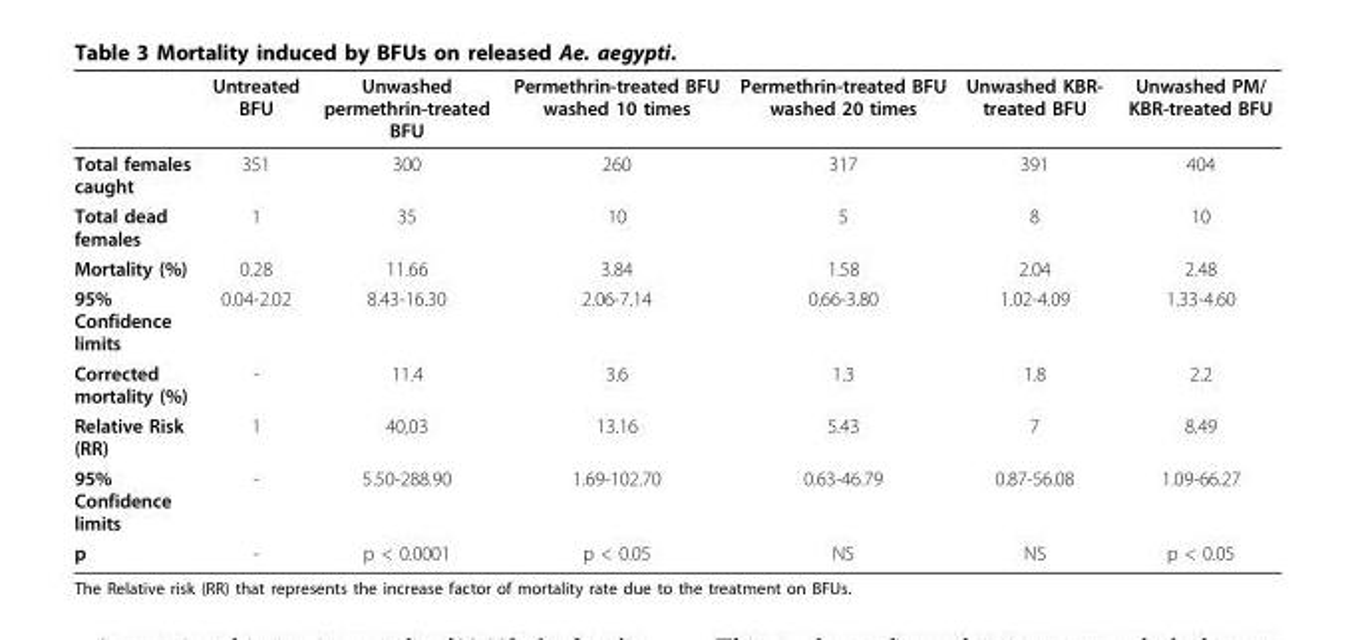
<table><thead><tr><td></td><td>Untreated BFU</td><td>Unwashed permethrin-treated BFU</td><td>Permethrin-treated BFU washed 10 times</td><td>Permethrin-treated BFU washed 20 times</td><td>Unwashed KBR- treated BFU</td><td>Unwashed PM/ KBR-treated BFU</td></tr></thead><tbody><tr><td>Total females caught</td><td>351</td><td>300</td><td>260</td><td>317</td><td>391</td><td>404</td></tr><tr><td>Total dead females</td><td>1</td><td>35</td><td>10</td><td>5</td><td>8</td><td>10</td></tr><tr><td>Mortality (%)</td><td>0.28</td><td>11.66</td><td>3.84</td><td>1.58</td><td>2.04</td><td>2.48</td></tr><tr><td>95% Confidence limits</td><td>0.04-2.02</td><td>8.43-16.30</td><td>2.06-7.14</td><td>0.66-3.80</td><td>1.02-4.09</td><td>1.33-4.60</td></tr><tr><td>Corrected mortality (%)</td><td>-</td><td>11.4</td><td>3.6</td><td>1.3</td><td>1.8</td><td>2.2</td></tr><tr><td>Relative Risk (RR)</td><td>1</td><td>40,03</td><td>13.16</td><td>5.43</td><td>7</td><td>8.49</td></tr><tr><td>95% Confidence limits</td><td>-</td><td>5.50-288.90</td><td>1.69-102.70</td><td>0.63-46.79</td><td>0.87-56.08</td><td>1.09-66.27</td></tr><tr><td>p</td><td>-</td><td>p &lt; 0.0001</td><td>p &lt; 0.05</td><td>NS</td><td>NS</td><td>p &lt; 0.05</td></tr></tbody></table>